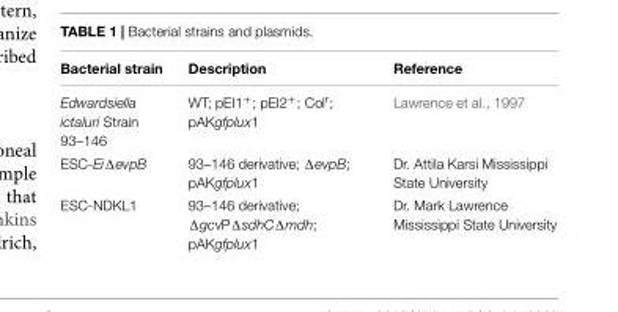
<table><thead><tr><td>Bacterial strain</td><td>Description</td><td>Reference</td></tr></thead><tbody><tr><td>Edwardsiella ictaluri Strain 93–146</td><td>WT; pEI1<sup>+</sup>; pEI2<sup>+</sup>; Col<sup>r</sup>; pAKgfplux1</td><td>Lawrence et al., 1997</td></tr><tr><td>ESC-EiΔevpB</td><td>93–146 derivative; ΔevpB; pAKgfplux1</td><td>Dr. Attila Karsi Mississippi State University</td></tr><tr><td>ESC-NDKL1</td><td>93–146 derivative; ΔgcvPΔsdhCΔmdh; pAKgfplux1</td><td>Dr. Mark Lawrence Mississippi State University</td></tr></tbody></table>